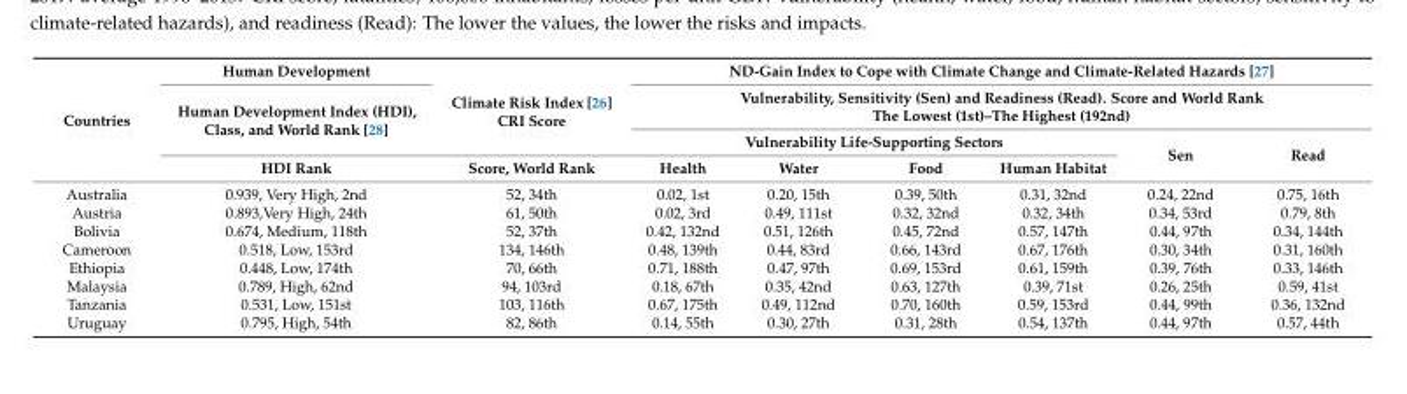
<table><thead><tr><td rowspan="4">Countries</td><td rowspan="4">Human Development Human Development Index (HDI), Class, and World Rank [28] HDI Rank</td><td rowspan="4">Climate Risk Index [26] CRI Score Score, World Rank</td><td rowspan="2" colspan="6">ND-Gain Index to Cope with Climate Change and Climate-Related Hazards [27] Vulnerability, Sensitivity (Sen) and Readiness (Read). Score and World Rank The Lowest (1st)–The Highest (192nd)</td></tr><tr></tr><tr><td colspan="4">Vulnerability Life-Supporting Sectors</td><td rowspan="2">Sen</td><td rowspan="2">Read</td></tr><tr><td>Health</td><td>Water</td><td>Food</td><td>Human Habitat</td></tr></thead><tbody><tr><td>Australia</td><td>0.939, Very High, 2nd</td><td>52, 34th</td><td>0.02, 1st</td><td>0.20, 15th</td><td>0.39, 50th</td><td>0.31, 32nd</td><td>0.24, 22nd</td><td>0.75, 16th</td></tr><tr><td>Austria</td><td>0.893,Very High, 24th</td><td>61, 50th</td><td>0.02, 3rd</td><td>0.49, 111st</td><td>0.32, 32nd</td><td>0.32, 34th</td><td>0.34, 53rd</td><td>0.79, 8th</td></tr><tr><td>Bolivia</td><td>0.674, Medium, 118th</td><td>52, 37th</td><td>0.42, 132nd</td><td>0.51, 126th</td><td>0.45, 72nd</td><td>0.57, 147th</td><td>0.44, 97th</td><td>0.34, 144th</td></tr><tr><td>Cameroon</td><td>0.518, Low, 153rd</td><td>134, 146th</td><td>0.48, 139th</td><td>0.44, 83rd</td><td>0.66, 143rd</td><td>0.67, 176th</td><td>0.30, 34th</td><td>0.31, 160th</td></tr><tr><td>Ethiopia</td><td>0.448, Low, 174th</td><td>70, 66th</td><td>0.71, 188th</td><td>0.47, 97th</td><td>0.69, 153rd</td><td>0.61, 159th</td><td>0.39, 76th</td><td>0.33, 146th</td></tr><tr><td>Malaysia</td><td>0.789, High, 62nd</td><td>94, 103rd</td><td>0.18, 67th</td><td>0.35, 42nd</td><td>0.63, 127th</td><td>0.39, 71st</td><td>0.26, 25th</td><td>0.59, 41st</td></tr><tr><td>Tanzania</td><td>0.531, Low, 151st</td><td>103, 116th</td><td>0.67, 175th</td><td>0.49, 112nd</td><td>0.70, 160th</td><td>0.59, 153rd</td><td>0.44, 99th</td><td>0.36, 132nd</td></tr><tr><td>Uruguay</td><td>0.795, High, 54th</td><td>82, 86th</td><td>0.14, 55th</td><td>0.30, 27th</td><td>0.31, 28th</td><td>0.54, 137th</td><td>0.44, 97th</td><td>0.57, 44th</td></tr></tbody></table>